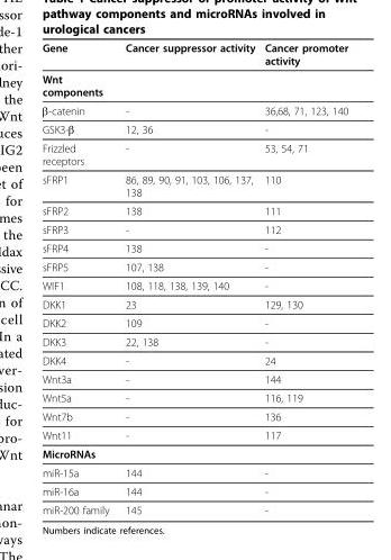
<table><thead><tr><td>Gene</td><td>Cancer suppressor activity</td><td>Cancer promoter activity</td></tr></thead><tbody><tr><td colspan="3">Wnt components</td></tr><tr><td>β-catenin</td><td>-</td><td>36,68, 71, 123, 140</td></tr><tr><td>GSK3-β</td><td>12, 36</td><td>-</td></tr><tr><td>Frizzled receptors</td><td>-</td><td>53, 54, 71</td></tr><tr><td>sFRP1</td><td>86, 89, 90, 91, 103, 106, 137, 138</td><td>110</td></tr><tr><td>sFRP2</td><td>138</td><td>111</td></tr><tr><td>sFRP3</td><td>-</td><td>112</td></tr><tr><td>sFRP4</td><td>138</td><td>-</td></tr><tr><td>sFRP5</td><td>107, 138</td><td>-</td></tr><tr><td>WIF1</td><td>108, 118, 138, 139, 140</td><td>-</td></tr><tr><td>DKK1</td><td>23</td><td>129, 130</td></tr><tr><td>DKK2</td><td>109</td><td>-</td></tr><tr><td>DKK3</td><td>22, 138</td><td>-</td></tr><tr><td>DKK4</td><td>-</td><td>24</td></tr><tr><td>Wnt3a</td><td>-</td><td>144</td></tr><tr><td>Wnt5a</td><td>-</td><td>116, 119</td></tr><tr><td>Wnt7b</td><td>-</td><td>136</td></tr><tr><td>Wnt11</td><td>-</td><td>117</td></tr><tr><td colspan="3">MicroRNAs</td></tr><tr><td>miR-15a</td><td>144</td><td>-</td></tr><tr><td>miR-16a</td><td>144</td><td>-</td></tr><tr><td>miR-200 family</td><td>145</td><td>-</td></tr></tbody></table>